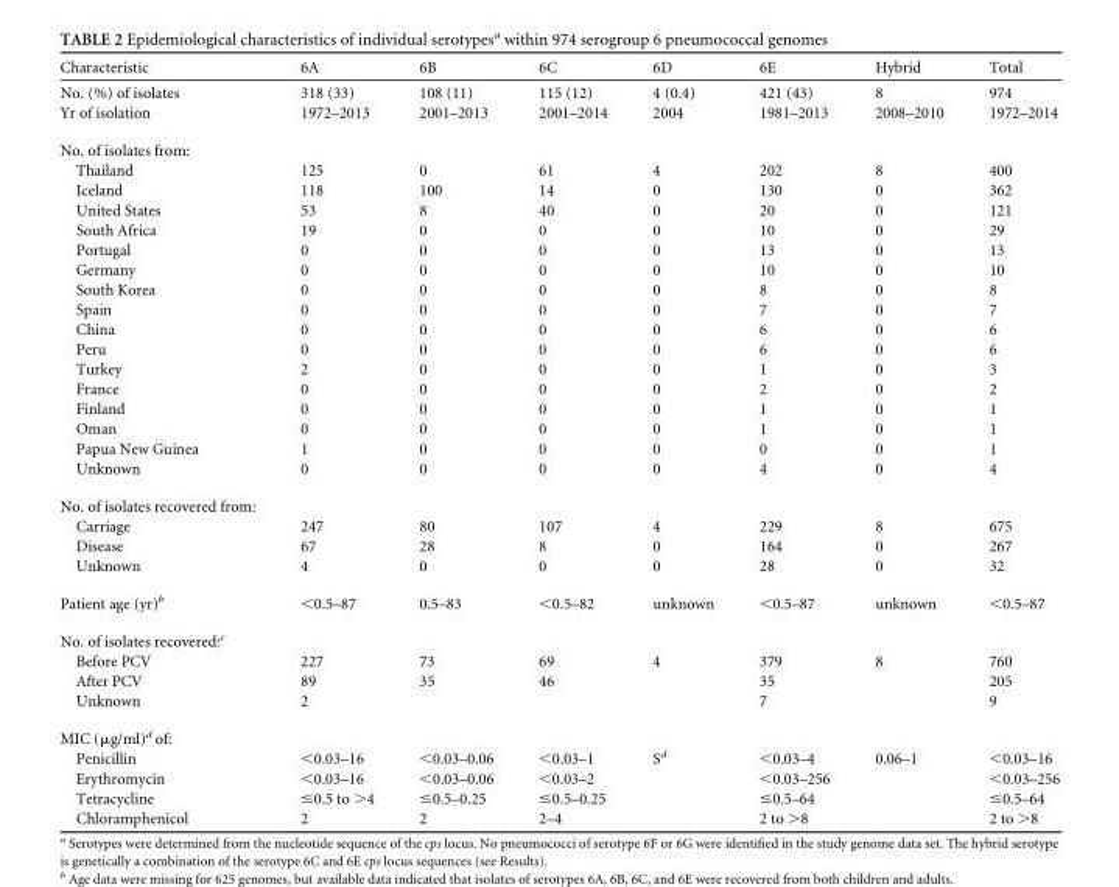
<table><thead><tr><td>Characteristic</td><td>6A</td><td>6B</td><td>6C</td><td>6D</td><td>6E</td><td>Hybrid</td><td>Total</td></tr></thead><tbody><tr><td>No. (%) of isolates</td><td>318 (33)</td><td>108 (11)</td><td>115 (12)</td><td>4 (0.4)</td><td>421 (43)</td><td>8</td><td>974</td></tr><tr><td>Yr of isolation</td><td>1972–2013</td><td>2001–2013</td><td>2001–2014</td><td>2004</td><td>1981–2013</td><td>2008–2010</td><td>1972–2014</td></tr><tr><td colspan="8">No. of isolates from:</td></tr><tr><td>Thailand</td><td>125</td><td>0</td><td>61</td><td>4</td><td>202</td><td>8</td><td>400</td></tr><tr><td>Iceland</td><td>118</td><td>100</td><td>14</td><td>0</td><td>130</td><td>0</td><td>362</td></tr><tr><td>United States</td><td>53</td><td>8</td><td>40</td><td>0</td><td>20</td><td>0</td><td>121</td></tr><tr><td>South Africa</td><td>19</td><td>0</td><td>0</td><td>0</td><td>10</td><td>0</td><td>29</td></tr><tr><td>Portugal</td><td>0</td><td>0</td><td>0</td><td>0</td><td>13</td><td>0</td><td>13</td></tr><tr><td>Germany</td><td>0</td><td>0</td><td>0</td><td>0</td><td>10</td><td>0</td><td>10</td></tr><tr><td>South Korea</td><td>0</td><td>0</td><td>0</td><td>0</td><td>8</td><td>0</td><td>8</td></tr><tr><td>Spain</td><td>0</td><td>0</td><td>0</td><td>0</td><td>7</td><td>0</td><td>7</td></tr><tr><td>China</td><td>0</td><td>0</td><td>0</td><td>0</td><td>6</td><td>0</td><td>6</td></tr><tr><td>Peru</td><td>0</td><td>0</td><td>0</td><td>0</td><td>6</td><td>0</td><td>6</td></tr><tr><td>Turkey</td><td>2</td><td>0</td><td>0</td><td>0</td><td>1</td><td>0</td><td>3</td></tr><tr><td>France</td><td>0</td><td>0</td><td>0</td><td>0</td><td>2</td><td>0</td><td>2</td></tr><tr><td>Finland</td><td>0</td><td>0</td><td>0</td><td>0</td><td>1</td><td>0</td><td>1</td></tr><tr><td>Oman</td><td>0</td><td>0</td><td>0</td><td>0</td><td>1</td><td>0</td><td>1</td></tr><tr><td>Papua New Guinea</td><td>1</td><td>0</td><td>0</td><td>0</td><td>0</td><td>0</td><td>1</td></tr><tr><td>Unknown</td><td>0</td><td>0</td><td>0</td><td>0</td><td>4</td><td>0</td><td>4</td></tr><tr><td colspan="8">No. of isolates recovered from:</td></tr><tr><td>Carriage</td><td>247</td><td>80</td><td>107</td><td>4</td><td>229</td><td>8</td><td>675</td></tr><tr><td>Disease</td><td>67</td><td>28</td><td>8</td><td>0</td><td>164</td><td>0</td><td>267</td></tr><tr><td>Unknown</td><td>4</td><td>0</td><td>0</td><td>0</td><td>28</td><td>0</td><td>32</td></tr><tr><td>Patient age (yr)<sup>b</sup></td><td>&lt;0.5–87</td><td>0.5–83</td><td>&lt;0.5–82</td><td>unknown</td><td>&lt;0.5–87</td><td>unknown</td><td>&lt;0.5–87</td></tr><tr><td colspan="8">No. of isolates recovered:<sup>c</sup></td></tr><tr><td>Before PCV</td><td>227</td><td>73</td><td>69</td><td>4</td><td>379</td><td>8</td><td>760</td></tr><tr><td>After PCV</td><td>89</td><td>35</td><td>46</td><td></td><td>35</td><td></td><td>205</td></tr><tr><td>Unknown</td><td>2</td><td></td><td></td><td></td><td>7</td><td></td><td>9</td></tr><tr><td colspan="8">MIC (μg/ml)<sup>d</sup> of:</td></tr><tr><td>Penicillin</td><td>&lt;0.03–16</td><td>&lt;0.03–0.06</td><td>&lt;0.03–1</td><td>S<sup>d</sup></td><td>&lt;0.03–4</td><td>0.06–1</td><td>&lt;0.03–16</td></tr><tr><td>Erythromycin</td><td>&lt;0.03–16</td><td>&lt;0.03–0.06</td><td>&lt;0.03–2</td><td></td><td>&lt;0.03–256</td><td></td><td>&lt;0.03–256</td></tr><tr><td>Tetracycline</td><td>≤0.5 to &gt;4</td><td>≤0.5–0.25</td><td>≤0.5–0.25</td><td></td><td>≤0.5–64</td><td></td><td>≤0.5–64</td></tr><tr><td>Chloramphenicol</td><td>2</td><td>2</td><td>2–4</td><td></td><td>2 to &gt;8</td><td></td><td>2 to &gt;8</td></tr></tbody></table>